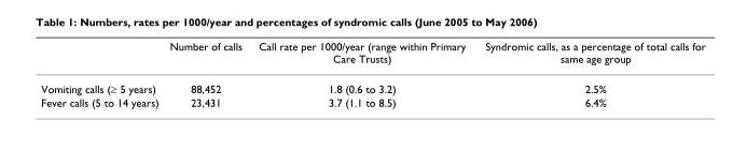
<table><thead><tr><td></td><td>Number of calls</td><td>Call rate per 1000/year (range within Primary Care Trusts)</td><td>Syndromic calls, as a percentage of total calls for same age group</td></tr></thead><tbody><tr><td>Vomiting calls (≥ 5 years)</td><td>88,452</td><td>1.8 (0.6 to 3.2)</td><td>2.5%</td></tr><tr><td>Fever calls (5 to 14 years)</td><td>23,431</td><td>3.7 (1.1 to 8.5)</td><td>6.4%</td></tr></tbody></table>